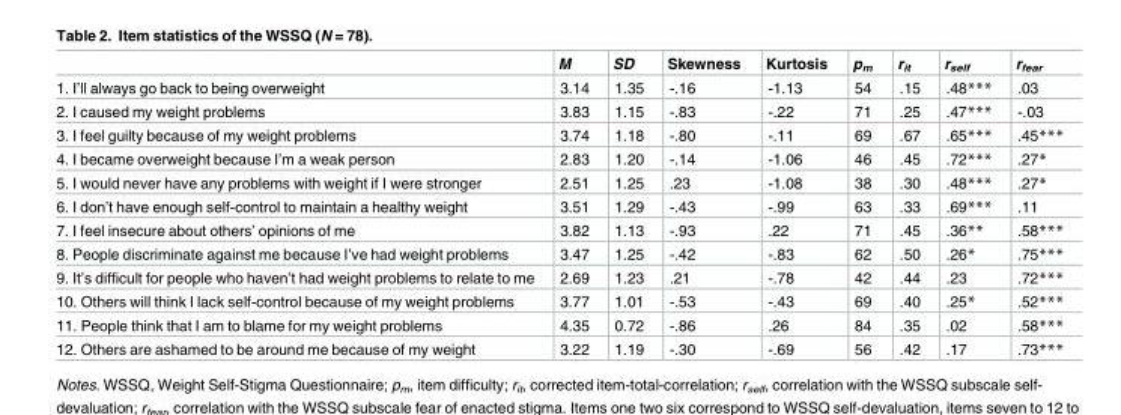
<table><thead><tr><td></td><td>M</td><td>SD</td><td>Skewness</td><td>Kurtosis</td><td>p<sub>m</sub></td><td>r<sub>it</sub></td><td>r<sub>self</sub></td><td>r<sub>fear</sub></td></tr></thead><tbody><tr><td>1. I’ll always go back to being overweight</td><td>3.14</td><td>1.35</td><td>-.16</td><td>-1.13</td><td>54</td><td>.15</td><td>.48***</td><td>.03</td></tr><tr><td>2. I caused my weight problems</td><td>3.83</td><td>1.15</td><td>-.83</td><td>-.22</td><td>71</td><td>.25</td><td>.47***</td><td>-.03</td></tr><tr><td>3. I feel guilty because of my weight problems</td><td>3.74</td><td>1.18</td><td>-.80</td><td>-.11</td><td>69</td><td>.67</td><td>.65***</td><td>.45***</td></tr><tr><td>4. I became overweight because I’m a weak person</td><td>2.83</td><td>1.20</td><td>-.14</td><td>-1.06</td><td>46</td><td>.45</td><td>.72***</td><td>.27*</td></tr><tr><td>5. I would never have any problems with weight if I were stronger</td><td>2.51</td><td>1.25</td><td>.23</td><td>-1.08</td><td>38</td><td>.30</td><td>.48***</td><td>.27*</td></tr><tr><td>6. I don’t have enough self-control to maintain a healthy weight</td><td>3.51</td><td>1.29</td><td>-.43</td><td>-.99</td><td>63</td><td>.33</td><td>.69***</td><td>.11</td></tr><tr><td>7. I feel insecure about others’ opinions of me</td><td>3.82</td><td>1.13</td><td>-.93</td><td>.22</td><td>71</td><td>.45</td><td>.36**</td><td>.58***</td></tr><tr><td>8. People discriminate against me because I’ve had weight problems</td><td>3.47</td><td>1.25</td><td>-.42</td><td>-.83</td><td>62</td><td>.50</td><td>.26*</td><td>.75***</td></tr><tr><td>9. It’s difficult for people who haven’t had weight problems to relate to me</td><td>2.69</td><td>1.23</td><td>.21</td><td>-.78</td><td>42</td><td>.44</td><td>.23</td><td>.72***</td></tr><tr><td>10. Others will think I lack self-control because of my weight problems</td><td>3.77</td><td>1.01</td><td>-.53</td><td>-.43</td><td>69</td><td>.40</td><td>.25*</td><td>.52***</td></tr><tr><td>11. People think that I am to blame for my weight problems</td><td>4.35</td><td>0.72</td><td>-.86</td><td>.26</td><td>84</td><td>.35</td><td>.02</td><td>.58***</td></tr><tr><td>12. Others are ashamed to be around me because of my weight</td><td>3.22</td><td>1.19</td><td>-.30</td><td>-.69</td><td>56</td><td>.42</td><td>.17</td><td>.73***</td></tr></tbody></table>